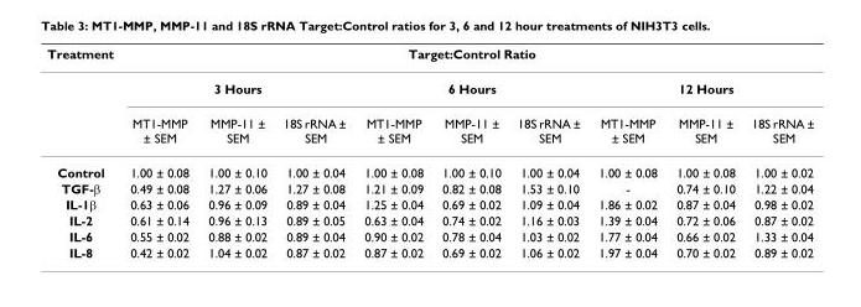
<table><thead><tr><td rowspan="3">Treatment</td><td colspan="9">Target:Control Ratio</td></tr><tr><td colspan="3">3 Hours</td><td colspan="3">6 Hours</td><td colspan="3">12 Hours</td></tr><tr><td>MT1-MMP ± SEM</td><td>MMP-11 ± SEM</td><td>18S rRNA ± SEM</td><td>MT1-MMP ± SEM</td><td>MMP-11 ± SEM</td><td>18S rRNA ± SEM</td><td>MT1-MMP ± SEM</td><td>MMP-11 ± SEM</td><td>18S rRNA ± SEM</td></tr></thead><tbody><tr><td>Control</td><td>1.00 ± 0.08</td><td>1.00 ± 0.10</td><td>1.00 ± 0.04</td><td>1.00 ± 0.08</td><td>1.00 ± 0.10</td><td>1.00 ± 0.04</td><td>1.00 ± 0.08</td><td>1.00 ± 0.08</td><td>1.00 ± 0.02</td></tr><tr><td>TGF-β</td><td>0.49 ± 0.08</td><td>1.27 ± 0.06</td><td>1.27 ± 0.08</td><td>1.21 ± 0.09</td><td>0.82 ± 0.08</td><td>1.53 ± 0.10</td><td>-</td><td>0.74 ± 0.10</td><td>1.22 ± 0.04</td></tr><tr><td>IL-1β</td><td>0.63 ± 0.06</td><td>0.96 ± 0.09</td><td>0.89 ± 0.04</td><td>1.25 ± 0.04</td><td>0.69 ± 0.02</td><td>1.09 ± 0.04</td><td>1.86 ± 0.02</td><td>0.87 ± 0.04</td><td>0.98 ± 0.02</td></tr><tr><td>IL-2</td><td>0.61 ± 0.14</td><td>0.96 ± 0.13</td><td>0.89 ± 0.05</td><td>0.63 ± 0.04</td><td>0.74 ± 0.02</td><td>1.16 ± 0.03</td><td>1.39 ± 0.04</td><td>0.72 ± 0.06</td><td>0.87 ± 0.02</td></tr><tr><td>IL-6</td><td>0.55 ± 0.02</td><td>0.88 ± 0.02</td><td>0.89 ± 0.04</td><td>0.90 ± 0.02</td><td>0.78 ± 0.04</td><td>1.03 ± 0.02</td><td>1.77 ± 0.04</td><td>0.66 ± 0.02</td><td>1.33 ± 0.04</td></tr><tr><td>IL-8</td><td>0.42 ± 0.02</td><td>1.04 ± 0.02</td><td>0.87 ± 0.02</td><td>0.87 ± 0.02</td><td>0.69 ± 0.02</td><td>1.06 ± 0.02</td><td>1.97 ± 0.04</td><td>0.70 ± 0.02</td><td>0.89 ± 0.02</td></tr></tbody></table>